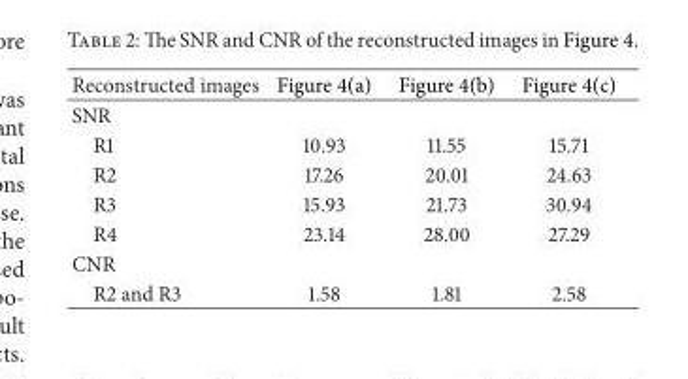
<table><thead><tr><td>Reconstructed images</td><td>Figure 4(a)</td><td>Figure 4(b)</td><td>Figure 4(c)</td></tr></thead><tbody><tr><td colspan="4">SNR</td></tr><tr><td>R1</td><td>10.93</td><td>11.55</td><td>15.71</td></tr><tr><td>R2</td><td>17.26</td><td>20.01</td><td>24.63</td></tr><tr><td>R3</td><td>15.93</td><td>21.73</td><td>30.94</td></tr><tr><td>R4</td><td>23.14</td><td>28.00</td><td>27.29</td></tr><tr><td colspan="4">CNR</td></tr><tr><td>R2 and R3</td><td>1.58</td><td>1.81</td><td>2.58</td></tr></tbody></table>